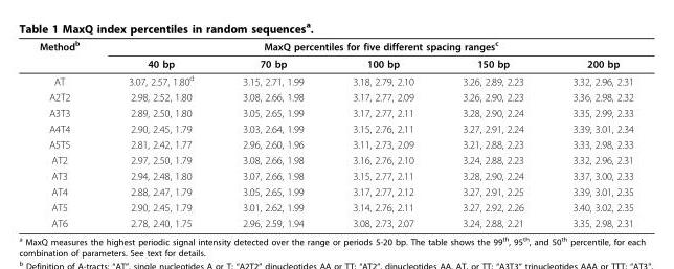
<table><thead><tr><td rowspan="2">Method<sup>b</sup></td><td colspan="5">MaxQ percentiles for five different spacing ranges<sup>c</sup></td></tr><tr><td>40 bp</td><td>70 bp</td><td>100 bp</td><td>150 bp</td><td>200 bp</td></tr></thead><tbody><tr><td>AT</td><td>3.07, 2.57, 1.80<sup>d</sup></td><td>3.15, 2.71, 1.99</td><td>3.18, 2.79, 2.10</td><td>3.26, 2.89, 2.23</td><td>3.32, 2.96, 2.31</td></tr><tr><td>A2T2</td><td>2.98, 2.52, 1.80</td><td>3.08, 2.66, 1.98</td><td>3.17, 2.77, 2.09</td><td>3.26, 2.90, 2.23</td><td>3.36, 2.98, 2.32</td></tr><tr><td>A3T3</td><td>2.89, 2.50, 1.80</td><td>3.05, 2.65, 1.99</td><td>3.17, 2.77, 2.11</td><td>3.28, 2.90, 2.24</td><td>3.35, 2.99, 2.33</td></tr><tr><td>A4T4</td><td>2.90, 2.45, 1.79</td><td>3.03, 2.64, 1.99</td><td>3.15, 2.76, 2.11</td><td>3.27, 2.91, 2.24</td><td>3.39, 3.01, 2.34</td></tr><tr><td>A5T5</td><td>2.81, 2.42, 1.77</td><td>2.96, 2.60, 1.96</td><td>3.11, 2.73, 2.09</td><td>3.21, 2.88, 2.23</td><td>3.33, 2.98, 2.33</td></tr><tr><td>AT2</td><td>2.97, 2.50, 1.79</td><td>3.08, 2.66, 1.98</td><td>3.16, 2.76, 2.10</td><td>3.24, 2.88, 2.23</td><td>3.32, 2.96, 2.31</td></tr><tr><td>AT3</td><td>2.94, 2.48, 1.80</td><td>3.07, 2.66, 1.98</td><td>3.15, 2.77, 2.11</td><td>3.28, 2.90, 2.24</td><td>3.37, 3.00, 2.33</td></tr><tr><td>AT4</td><td>2.88, 2.47, 1.79</td><td>3.05, 2.65, 1.99</td><td>3.17, 2.77, 2.12</td><td>3.27, 2.91, 2.25</td><td>3.39, 3.01, 2.35</td></tr><tr><td>AT5</td><td>2.90, 2.45, 1.79</td><td>3.01, 2.62, 1.99</td><td>3.14, 2.76, 2.11</td><td>3.27, 2.92, 2.26</td><td>3.40, 3.02, 2.35</td></tr><tr><td>AT6</td><td>2.78, 2.40, 1.75</td><td>2.96, 2.59, 1.94</td><td>3.08, 2.73, 2.07</td><td>3.24, 2.88, 2.21</td><td>3.35, 2.98, 2.31</td></tr></tbody></table>